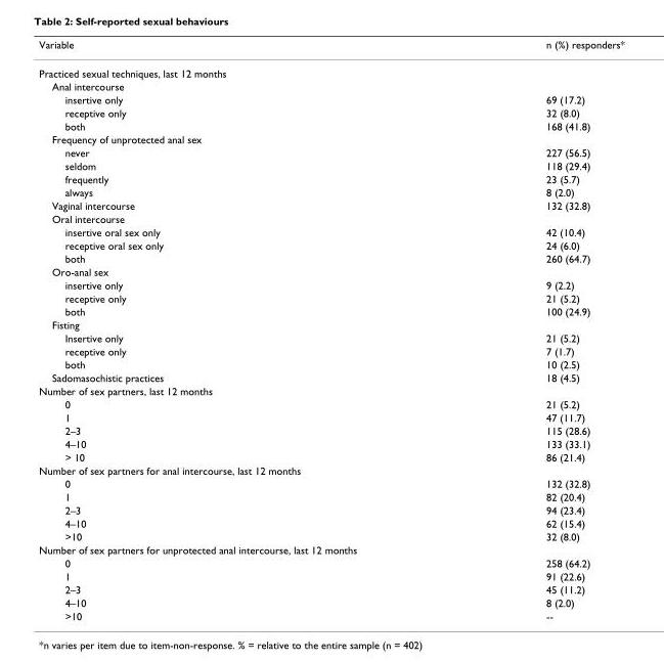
<table><thead><tr><td>Variable</td><td>n (%) responders*</td></tr></thead><tbody><tr><td colspan="2">Practiced sexual techniques, last 12 months</td></tr><tr><td colspan="2">Anal intercourse</td></tr><tr><td>insertive only</td><td>69 (17.2)</td></tr><tr><td>receptive only</td><td>32 (8.0)</td></tr><tr><td>both</td><td>168 (41.8)</td></tr><tr><td colspan="2">Frequency of unprotected anal sex</td></tr><tr><td>never</td><td>227 (56.5)</td></tr><tr><td>seldom</td><td>118 (29.4)</td></tr><tr><td>frequently</td><td>23 (5.7)</td></tr><tr><td>always</td><td>8 (2.0)</td></tr><tr><td>Vaginal intercourse</td><td>132 (32.8)</td></tr><tr><td colspan="2">Oral intercourse</td></tr><tr><td>insertive oral sex only</td><td>42 (10.4)</td></tr><tr><td>receptive oral sex only</td><td>24 (6.0)</td></tr><tr><td>both</td><td>260 (64.7)</td></tr><tr><td colspan="2">Oro-anal sex</td></tr><tr><td>insertive only</td><td>9 (2.2)</td></tr><tr><td>receptive only</td><td>21 (5.2)</td></tr><tr><td>both</td><td>100 (24.9)</td></tr><tr><td colspan="2">Fisting</td></tr><tr><td>Insertive only</td><td>21 (5.2)</td></tr><tr><td>receptive only</td><td>7 (1.7)</td></tr><tr><td>both</td><td>10 (2.5)</td></tr><tr><td>Sadomasochistic practices</td><td>18 (4.5)</td></tr><tr><td colspan="2">Number of sex partners, last 12 months</td></tr><tr><td>0</td><td>21 (5.2)</td></tr><tr><td>1</td><td>47 (11.7)</td></tr><tr><td>2–3</td><td>115 (28.6)</td></tr><tr><td>4–10</td><td>133 (33.1)</td></tr><tr><td>&gt; 10</td><td>86 (21.4)</td></tr><tr><td colspan="2">Number of sex partners for anal intercourse, last 12 months</td></tr><tr><td>0</td><td>132 (32.8)</td></tr><tr><td>1</td><td>82 (20.4)</td></tr><tr><td>2–3</td><td>94 (23.4)</td></tr><tr><td>4–10</td><td>62 (15.4)</td></tr><tr><td>&gt;10</td><td>32 (8.0)</td></tr><tr><td colspan="2">Number of sex partners for unprotected anal intercourse, last 12 months</td></tr><tr><td>0</td><td>258 (64.2)</td></tr><tr><td>1</td><td>91 (22.6)</td></tr><tr><td>2–3</td><td>45 (11.2)</td></tr><tr><td>4–10</td><td>8 (2.0)</td></tr><tr><td>&gt;10</td><td>--</td></tr></tbody></table>